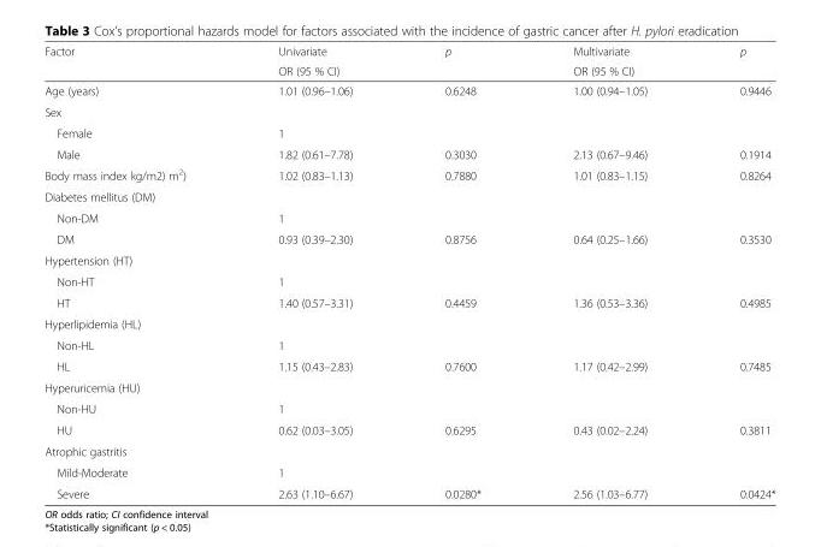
<table><thead><tr><td rowspan="2">Factor</td><td rowspan="2">Univariate OR (95 % CI)</td><td rowspan="2">p</td><td rowspan="2">Multivariate OR (95 % CI)</td><td rowspan="2">p</td></tr><tr></tr></thead><tbody><tr><td>Age (years)</td><td>1.01 (0.96–1.06)</td><td>0.6248</td><td>1.00 (0.94–1.05)</td><td>0.9446</td></tr><tr><td colspan="5">Sex</td></tr><tr><td>Female</td><td>1</td><td></td><td></td><td></td></tr><tr><td>Male</td><td>1.82 (0.61–7.78)</td><td>0.3030</td><td>2.13 (0.67–9.46)</td><td>0.1914</td></tr><tr><td>Body mass index kg/m2) m<sup>2</sup>)</td><td>1.02 (0.83–1.13)</td><td>0.7880</td><td>1.01 (0.83–1.15)</td><td>0.8264</td></tr><tr><td colspan="5">Diabetes mellitus (DM)</td></tr><tr><td>Non-DM</td><td>1</td><td></td><td></td><td></td></tr><tr><td>DM</td><td>0.93 (0.39–2.30)</td><td>0.8756</td><td>0.64 (0.25–1.66)</td><td>0.3530</td></tr><tr><td colspan="5">Hypertension (HT)</td></tr><tr><td>Non-HT</td><td>1</td><td></td><td></td><td></td></tr><tr><td>HT</td><td>1.40 (0.57–3.31)</td><td>0.4459</td><td>1.36 (0.53–3.36)</td><td>0.4985</td></tr><tr><td colspan="5">Hyperlipidemia (HL)</td></tr><tr><td>Non-HL</td><td>1</td><td></td><td></td><td></td></tr><tr><td>HL</td><td>1.15 (0.43–2.83)</td><td>0.7600</td><td>1.17 (0.42–2.99)</td><td>0.7485</td></tr><tr><td colspan="5">Hyperuricemia (HU)</td></tr><tr><td>Non-HU</td><td>1</td><td></td><td></td><td></td></tr><tr><td>HU</td><td>0.62 (0.03–3.05)</td><td>0.6295</td><td>0.43 (0.02–2.24)</td><td>0.3811</td></tr><tr><td colspan="5">Atrophic gastritis</td></tr><tr><td>Mild-Moderate</td><td>1</td><td></td><td></td><td></td></tr><tr><td>Severe</td><td>2.63 (1.10–6.67)</td><td>0.0280*</td><td>2.56 (1.03–6.77)</td><td>0.0424*</td></tr></tbody></table>